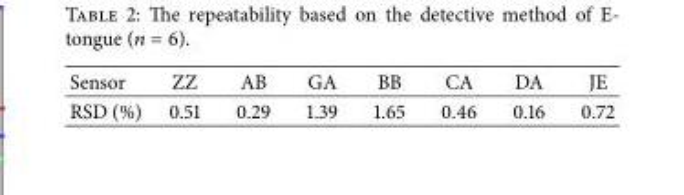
<table><tbody><tr><td>Sensor</td><td>ZZ</td><td>AB</td><td>GA</td><td>BB</td><td>CA</td><td>DA</td><td>JE</td></tr><tr><td>RSD (%)</td><td>0.51</td><td>0.29</td><td>1.39</td><td>1.65</td><td>0.46</td><td>0.16</td><td>0.72</td></tr></tbody></table>